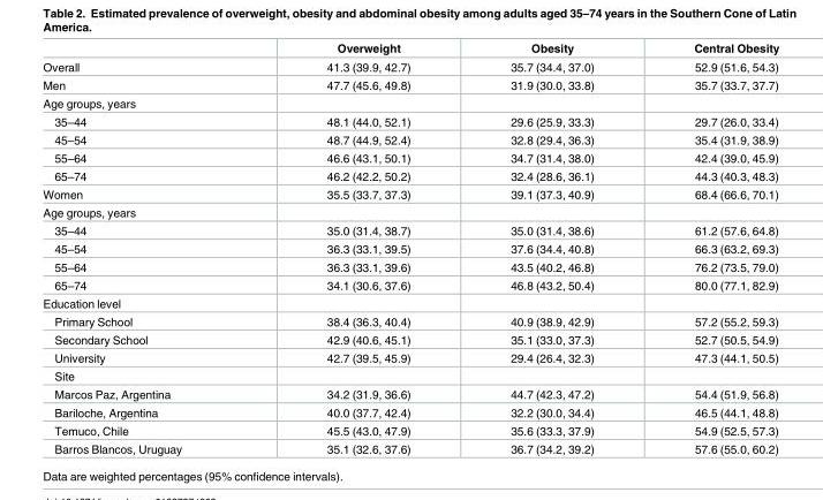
<table><thead><tr><td></td><td>Overweight</td><td>Obesity</td><td>Central Obesity</td></tr></thead><tbody><tr><td>Overall</td><td>41.3 (39.9, 42.7)</td><td>35.7 (34.4, 37.0)</td><td>52.9 (51.6, 54.3)</td></tr><tr><td>Men</td><td>47.7 (45.6, 49.8)</td><td>31.9 (30.0, 33.8)</td><td>35.7 (33.7, 37.7)</td></tr><tr><td colspan="4">Age groups, years</td></tr><tr><td>35–44</td><td>48.1 (44.0, 52.1)</td><td>29.6 (25.9, 33.3)</td><td>29.7 (26.0, 33.4)</td></tr><tr><td>45–54</td><td>48.7 (44.9, 52.4)</td><td>32.8 (29.4, 36.3)</td><td>35.4 (31.9, 38.9)</td></tr><tr><td>55–64</td><td>46.6 (43.1, 50.1)</td><td>34.7 (31.4, 38.0)</td><td>42.4 (39.0, 45.9)</td></tr><tr><td>65–74</td><td>46.2 (42.2, 50.2)</td><td>32.4 (28.6, 36.1)</td><td>44.3 (40.3, 48.3)</td></tr><tr><td>Women</td><td>35.5 (33.7, 37.3)</td><td>39.1 (37.3, 40.9)</td><td>68.4 (66.6, 70.1)</td></tr><tr><td colspan="4">Age groups, years</td></tr><tr><td>35–44</td><td>35.0 (31.4, 38.7)</td><td>35.0 (31.4, 38.6)</td><td>61.2 (57.6, 64.8)</td></tr><tr><td>45–54</td><td>36.3 (33.1, 39.5)</td><td>37.6 (34.4, 40.8)</td><td>66.3 (63.2, 69.3)</td></tr><tr><td>55–64</td><td>36.3 (33.1, 39.6)</td><td>43.5 (40.2, 46.8)</td><td>76.2 (73.5, 79.0)</td></tr><tr><td>65–74</td><td>34.1 (30.6, 37.6)</td><td>46.8 (43.2, 50.4)</td><td>80.0 (77.1, 82.9)</td></tr><tr><td colspan="4">Education level</td></tr><tr><td>Primary School</td><td>38.4 (36.3, 40.4)</td><td>40.9 (38.9, 42.9)</td><td>57.2 (55.2, 59.3)</td></tr><tr><td>Secondary School</td><td>42.9 (40.6, 45.1)</td><td>35.1 (33.0, 37.3)</td><td>52.7 (50.5, 54.9)</td></tr><tr><td>University</td><td>42.7 (39.5, 45.9)</td><td>29.4 (26.4, 32.3)</td><td>47.3 (44.1, 50.5)</td></tr><tr><td colspan="4">Site</td></tr><tr><td>Marcos Paz, Argentina</td><td>34.2 (31.9, 36.6)</td><td>44.7 (42.3, 47.2)</td><td>54.4 (51.9, 56.8)</td></tr><tr><td>Bariloche, Argentina</td><td>40.0 (37.7, 42.4)</td><td>32.2 (30.0, 34.4)</td><td>46.5 (44.1, 48.8)</td></tr><tr><td>Temuco, Chile</td><td>45.5 (43.0, 47.9)</td><td>35.6 (33.3, 37.9)</td><td>54.9 (52.5, 57.3)</td></tr><tr><td>Barros Blancos, Uruguay</td><td>35.1 (32.6, 37.6)</td><td>36.7 (34.2, 39.2)</td><td>57.6 (55.0, 60.2)</td></tr></tbody></table>